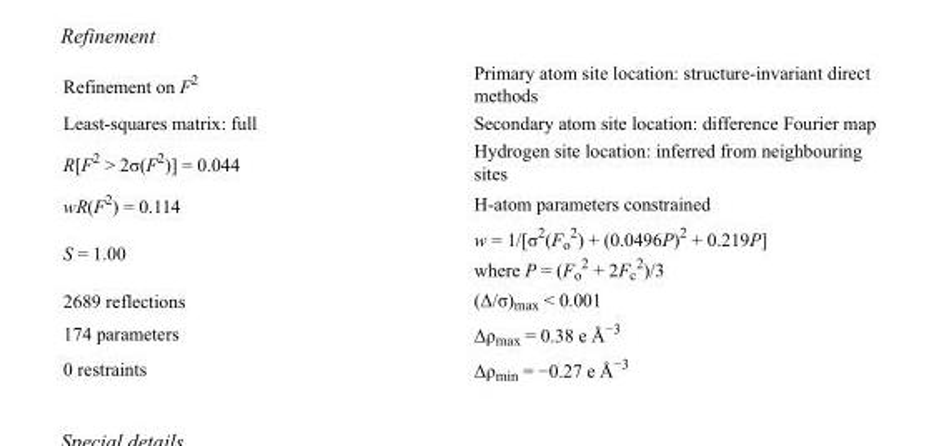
<table><tbody><tr><td>Refinement on F<sup>2</sup></td><td>Primary atom site location: structure-invariant direct methods</td></tr><tr><td>Least-squares matrix: full</td><td>Secondary atom site location: difference Fourier map</td></tr><tr><td>R[F<sup>2</sup> &gt; 2σ(F<sup>2</sup>)] = 0.044</td><td>Hydrogen site location: inferred from neighbouring sites</td></tr><tr><td>wR(F<sup>2</sup>) = 0.114</td><td>H-atom parameters constrained</td></tr><tr><td>S = 1.00</td><td>w = 1/[σ<sup>2</sup>(F<sub>o</sub> <sup>2</sup>) + (0.0496P)<sup>2</sup> + 0.219P] where P = (F<sub>o</sub> <sup>2</sup> + 2F<sub>c</sub> <sup>2</sup>)/3</td></tr><tr><td>2689 reflections</td><td>(Δ/σ)<sub>max</sub> &lt; 0.001</td></tr><tr><td>174 parameters</td><td>Δρ<sub>max</sub> = 0.38 e Å<sup>−3</sup></td></tr><tr><td>0 restraints</td><td>Δρ<sub>min</sub> = −0.27 e Å<sup>−3</sup></td></tr></tbody></table>